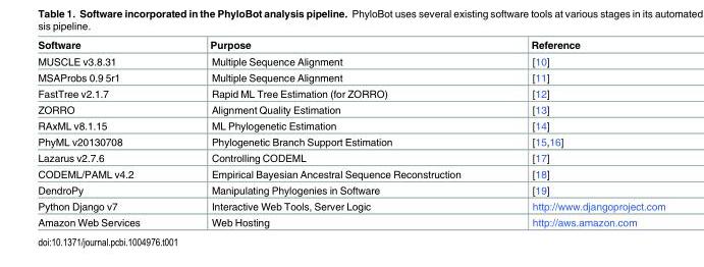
<table><thead><tr><td>Software</td><td>Purpose</td><td>Reference</td></tr></thead><tbody><tr><td>MUSCLE v3.8.31</td><td>Multiple Sequence Alignment</td><td>[10]</td></tr><tr><td>MSAProbs 0.9 5r1</td><td>Multiple Sequence Alignment</td><td>[11]</td></tr><tr><td>FastTree v2.1.7</td><td>Rapid ML Tree Estimation (for ZORRO)</td><td>[12]</td></tr><tr><td>ZORRO</td><td>Alignment Quality Estimation</td><td>[13]</td></tr><tr><td>RAxML v8.1.15</td><td>ML Phylogenetic Estimation</td><td>[14]</td></tr><tr><td>PhyML v20130708</td><td>Phylogenetic Branch Support Estimation</td><td>[15,16]</td></tr><tr><td>Lazarus v2.7.6</td><td>Controlling CODEML</td><td>[17]</td></tr><tr><td>CODEML/PAML v4.2</td><td>Empirical Bayesian Ancestral Sequence Reconstruction</td><td>[18]</td></tr><tr><td>DendroPy</td><td>Manipulating Phylogenies in Software</td><td>[19]</td></tr><tr><td>Python Django v7</td><td>Interactive Web Tools, Server Logic</td><td>http://www.djangoproject.com</td></tr><tr><td>Amazon Web Services</td><td>Web Hosting</td><td>http://aws.amazon.com</td></tr></tbody></table>